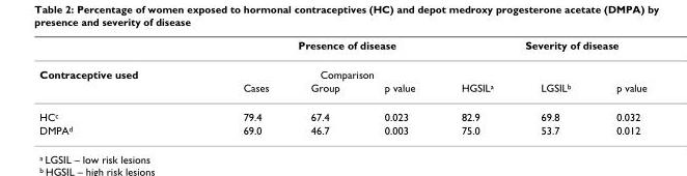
<table><thead><tr><td rowspan="3">Contraceptive used</td><td rowspan="2" colspan="3">Presence of disease Comparison</td><td colspan="3">Severity of disease</td></tr><tr><td rowspan="2">HGSIL<sup>a</sup></td><td rowspan="2">LGSIL<sup>b</sup></td><td rowspan="2">p value</td></tr><tr><td>Cases</td><td>Group</td><td>p value</td></tr></thead><tbody><tr><td>HC<sup>c</sup></td><td>79.4</td><td>67.4</td><td>0.023</td><td>82.9</td><td>69.8</td><td>0.032</td></tr><tr><td>DMPA<sup>d</sup></td><td>69.0</td><td>46.7</td><td>0.003</td><td>75.0</td><td>53.7</td><td>0.012</td></tr></tbody></table>